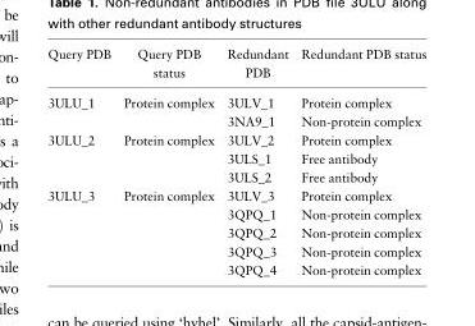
<table><thead><tr><td>Query PDB</td><td>Query PDB status</td><td>Redundant PDB</td><td>Redundant PDB status</td></tr></thead><tbody><tr><td rowspan="2">3ULU_1</td><td rowspan="2">Protein complex</td><td>3ULV_1</td><td>Protein complex</td></tr><tr><td>3NA9_1</td><td>Non-protein complex</td></tr><tr><td rowspan="3">3ULU_2</td><td rowspan="3">Protein complex</td><td>3ULV_2</td><td>Protein complex</td></tr><tr><td>3ULS_1</td><td>Free antibody</td></tr><tr><td>3ULS_2</td><td>Free antibody</td></tr><tr><td rowspan="5">3ULU_3</td><td rowspan="5">Protein complex</td><td>3ULV_3</td><td>Protein complex</td></tr><tr><td>3QPQ_1</td><td>Non-protein complex</td></tr><tr><td>3QPQ_2</td><td>Non-protein complex</td></tr><tr><td>3QPQ_3</td><td>Non-protein complex</td></tr><tr><td>3QPQ_4</td><td>Non-protein complex</td></tr></tbody></table>